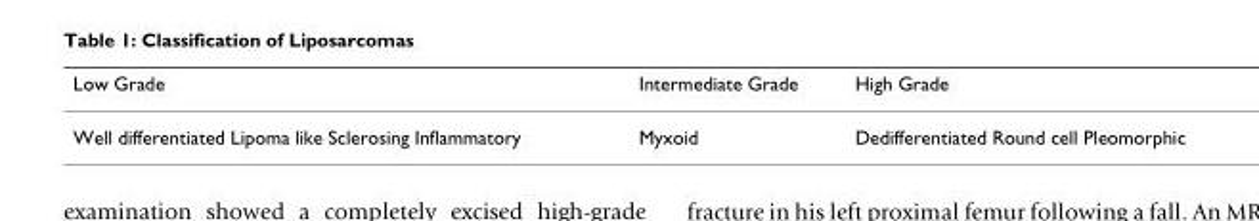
<table><thead><tr><td>Low Grade</td><td>Intermediate Grade</td><td>High Grade</td></tr></thead><tbody><tr><td>Well differentiated Lipoma like Sclerosing Inflammatory</td><td>Myxoid</td><td>Dedifferentiated Round cell Pleomorphic</td></tr></tbody></table>